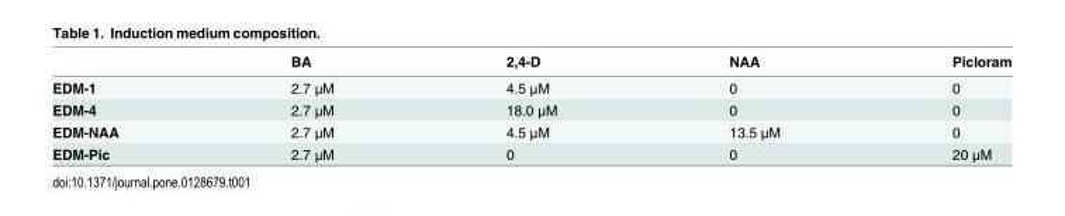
<table><thead><tr><td></td><td>BA</td><td>2,4-D</td><td>NAA</td><td>Picloram</td></tr></thead><tbody><tr><td>EDM-1</td><td>2.7 μM</td><td>4.5 μM</td><td>0</td><td>0</td></tr><tr><td>EDM-4</td><td>2.7 μM</td><td>18.0 μM</td><td>0</td><td>0</td></tr><tr><td>EDM-NAA</td><td>2.7 μM</td><td>4.5 μM</td><td>13.5 μM</td><td>0</td></tr><tr><td>EDM-Pic</td><td>2.7 μM</td><td>0</td><td>0</td><td>20 μM</td></tr></tbody></table>